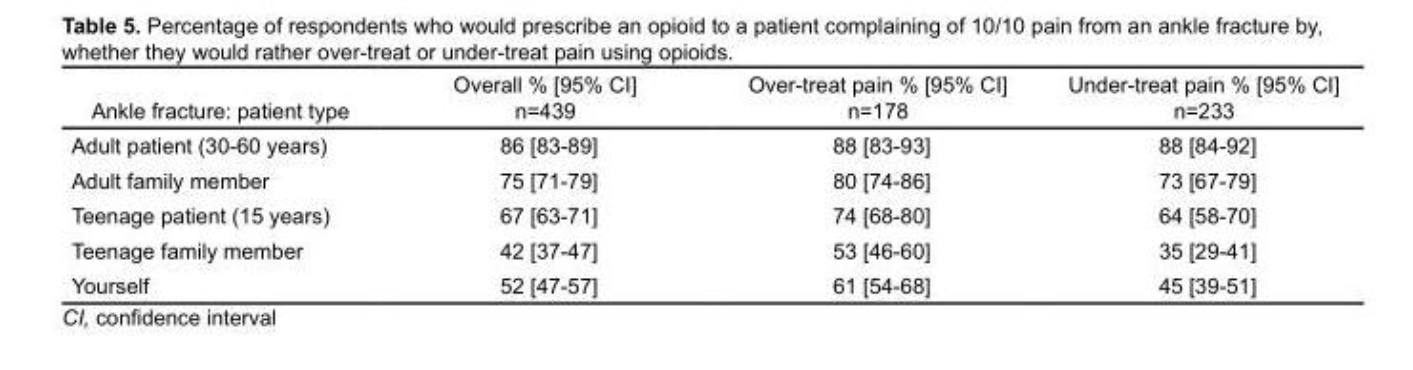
<table><thead><tr><td>Ankle fracture: patient type</td><td>Overall % [95% CI] n=439</td><td>Over-treat pain % [95% CI] n=178</td><td>Under-treat pain % [95% CI] n=233</td></tr></thead><tbody><tr><td>Adult patient (30-60 years)</td><td>86 [83-89]</td><td>88 [83-93]</td><td>88 [84-92]</td></tr><tr><td>Adult family member</td><td>75 [71-79]</td><td>80 [74-86]</td><td>73 [67-79]</td></tr><tr><td>Teenage patient (15 years)</td><td>67 [63-71]</td><td>74 [68-80]</td><td>64 [58-70]</td></tr><tr><td>Teenage family member</td><td>42 [37-47]</td><td>53 [46-60]</td><td>35 [29-41]</td></tr><tr><td>Yourself</td><td>52 [47-57]</td><td>61 [54-68]</td><td>45 [39-51]</td></tr></tbody></table>